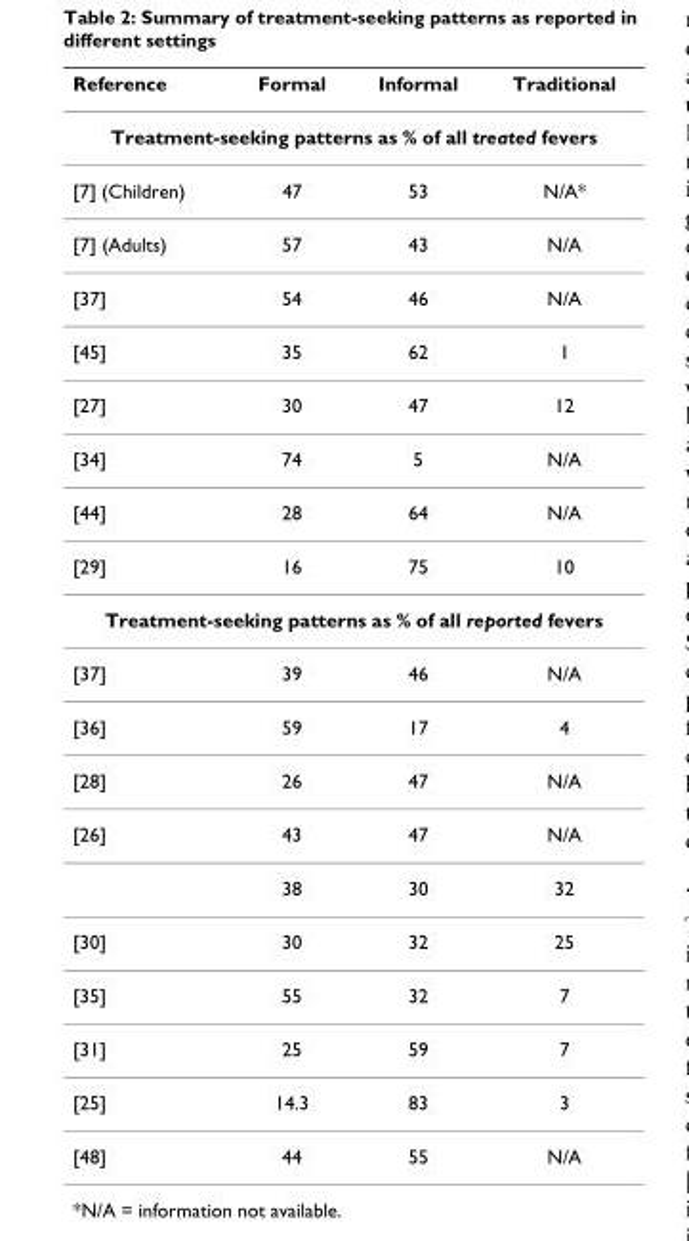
<table><thead><tr><td>Reference</td><td>Formal</td><td>Informal</td><td>Traditional</td></tr></thead><tbody><tr><td colspan="4">Treatment-seeking patterns as % of all treated fevers</td></tr><tr><td>[7] (Children)</td><td>47</td><td>53</td><td>N/A*</td></tr><tr><td>[7] (Adults)</td><td>57</td><td>43</td><td>N/A</td></tr><tr><td>[37]</td><td>54</td><td>46</td><td>N/A</td></tr><tr><td>[45]</td><td>35</td><td>62</td><td>1</td></tr><tr><td>[27]</td><td>30</td><td>47</td><td>12</td></tr><tr><td>[34]</td><td>74</td><td>5</td><td>N/A</td></tr><tr><td>[44]</td><td>28</td><td>64</td><td>N/A</td></tr><tr><td>[29]</td><td>16</td><td>75</td><td>10</td></tr><tr><td colspan="4">Treatment-seeking patterns as % of all reported fevers</td></tr><tr><td>[37]</td><td>39</td><td>46</td><td>N/A</td></tr><tr><td>[36]</td><td>59</td><td>17</td><td>4</td></tr><tr><td>[28]</td><td>26</td><td>47</td><td>N/A</td></tr><tr><td rowspan="2">[26]</td><td>43</td><td>47</td><td>N/A</td></tr><tr><td>38</td><td>30</td><td>32</td></tr><tr><td>[30]</td><td>30</td><td>32</td><td>25</td></tr><tr><td>[35]</td><td>55</td><td>32</td><td>7</td></tr><tr><td>[31]</td><td>25</td><td>59</td><td>7</td></tr><tr><td>[25]</td><td>14.3</td><td>83</td><td>3</td></tr><tr><td>[48]</td><td>44</td><td>55</td><td>N/A</td></tr></tbody></table>